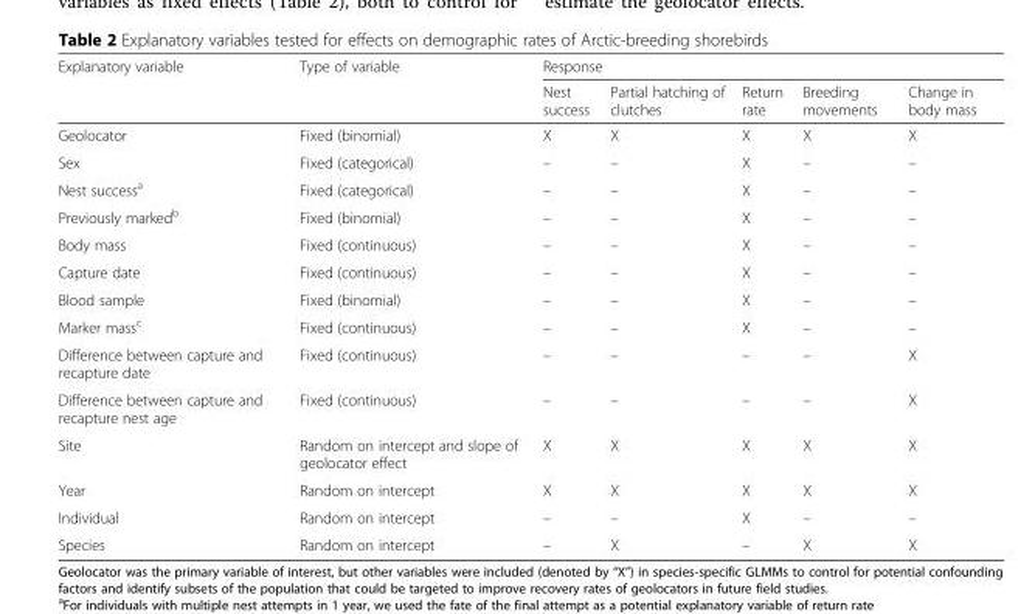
<table><thead><tr><td rowspan="2">Explanatory variable</td><td rowspan="2">Type of variable</td><td colspan="5">Response</td></tr><tr><td>Nest success</td><td>Partial hatching of clutches</td><td>Return rate</td><td>Breeding movements</td><td>Change in body mass</td></tr></thead><tbody><tr><td>Geolocator</td><td>Fixed (binomial)</td><td>X</td><td>X</td><td>X</td><td>X</td><td>X</td></tr><tr><td>Sex</td><td>Fixed (categorical)</td><td>–</td><td>–</td><td>X</td><td>–</td><td>–</td></tr><tr><td>Nest success<sup>a</sup></td><td>Fixed (categorical)</td><td>–</td><td>–</td><td>X</td><td>–</td><td>–</td></tr><tr><td>Previously marked<sup>b</sup></td><td>Fixed (binomial)</td><td>–</td><td>–</td><td>X</td><td>–</td><td>–</td></tr><tr><td>Body mass</td><td>Fixed (continuous)</td><td>–</td><td>–</td><td>X</td><td>–</td><td>–</td></tr><tr><td>Capture date</td><td>Fixed (continuous)</td><td>–</td><td>–</td><td>X</td><td>–</td><td>–</td></tr><tr><td>Blood sample</td><td>Fixed (binomial)</td><td>–</td><td>–</td><td>X</td><td>–</td><td>–</td></tr><tr><td>Marker mass<sup>c</sup></td><td>Fixed (continuous)</td><td>–</td><td>–</td><td>X</td><td>–</td><td>–</td></tr><tr><td>Difference between capture and recapture date</td><td>Fixed (continuous)</td><td>–</td><td>–</td><td>–</td><td>–</td><td>X</td></tr><tr><td>Difference between capture and recapture nest age</td><td>Fixed (continuous)</td><td>–</td><td>–</td><td>–</td><td>–</td><td>X</td></tr><tr><td>Site</td><td>Random on intercept and slope of geolocator effect</td><td>X</td><td>X</td><td>X</td><td>X</td><td>X</td></tr><tr><td>Year</td><td>Random on intercept</td><td>X</td><td>X</td><td>X</td><td>X</td><td>X</td></tr><tr><td>Individual</td><td>Random on intercept</td><td>–</td><td>–</td><td>X</td><td>–</td><td>–</td></tr><tr><td>Species</td><td>Random on intercept</td><td>–</td><td>X</td><td>–</td><td>X</td><td>X</td></tr></tbody></table>